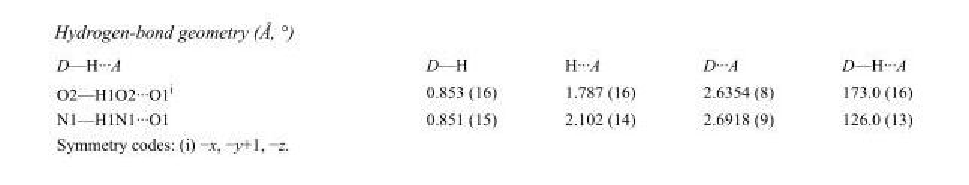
<table><tbody><tr><td>D—H···A</td><td>D—H</td><td>H···A</td><td>D···A</td><td>D—H···A</td></tr><tr><td>O2—H1O2···O1<sup>i</sup></td><td>0.853 (16)</td><td>1.787 (16)</td><td>2.6354 (8)</td><td>173.0 (16)</td></tr><tr><td>N1—H1N1···O1</td><td>0.851 (15)</td><td>2.102 (14)</td><td>2.6918 (9)</td><td>126.0 (13)</td></tr></tbody></table>